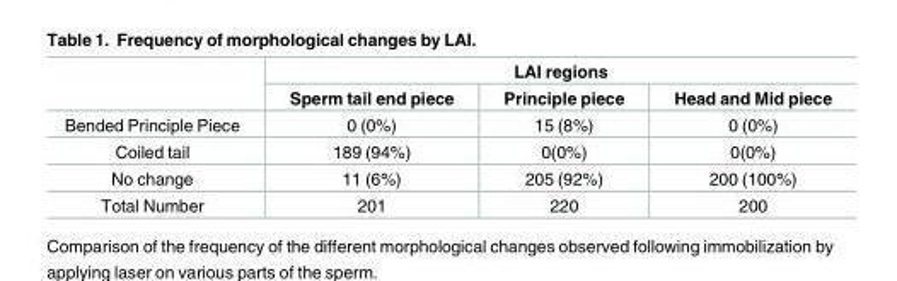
<table><thead><tr><td rowspan="2"></td><td colspan="3">LAI regions</td></tr><tr><td>Sperm tail end piece</td><td>Principle piece</td><td>Head and Mid piece</td></tr></thead><tbody><tr><td>Bended Principle Piece</td><td>0 (0%)</td><td>15 (8%)</td><td>0 (0%)</td></tr><tr><td>Coiled tail</td><td>189 (94%)</td><td>0(0%)</td><td>0(0%)</td></tr><tr><td>No change</td><td>11 (6%)</td><td>205 (92%)</td><td>200 (100%)</td></tr><tr><td>Total Number</td><td>201</td><td>220</td><td>200</td></tr></tbody></table>